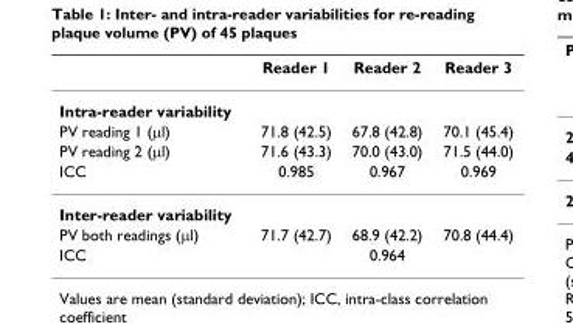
<table><thead><tr><td></td><td>Reader 1</td><td>Reader 2</td><td>Reader 3</td></tr></thead><tbody><tr><td colspan="4">Intra-reader variability</td></tr><tr><td>PV reading 1 (μl)</td><td>71.8 (42.5)</td><td>67.8 (42.8)</td><td>70.1 (45.4)</td></tr><tr><td>PV reading 2 (μl)</td><td>71.6 (43.3)</td><td>70.0 (43.0)</td><td>71.5 (44.0)</td></tr><tr><td>ICC</td><td>0.985</td><td>0.967</td><td>0.969</td></tr><tr><td colspan="4">Inter-reader variability</td></tr><tr><td>PV both readings (μl)</td><td>71.7 (42.7)</td><td>68.9 (42.2)</td><td>70.8 (44.4)</td></tr><tr><td>ICC</td><td></td><td>0.964</td><td></td></tr></tbody></table>